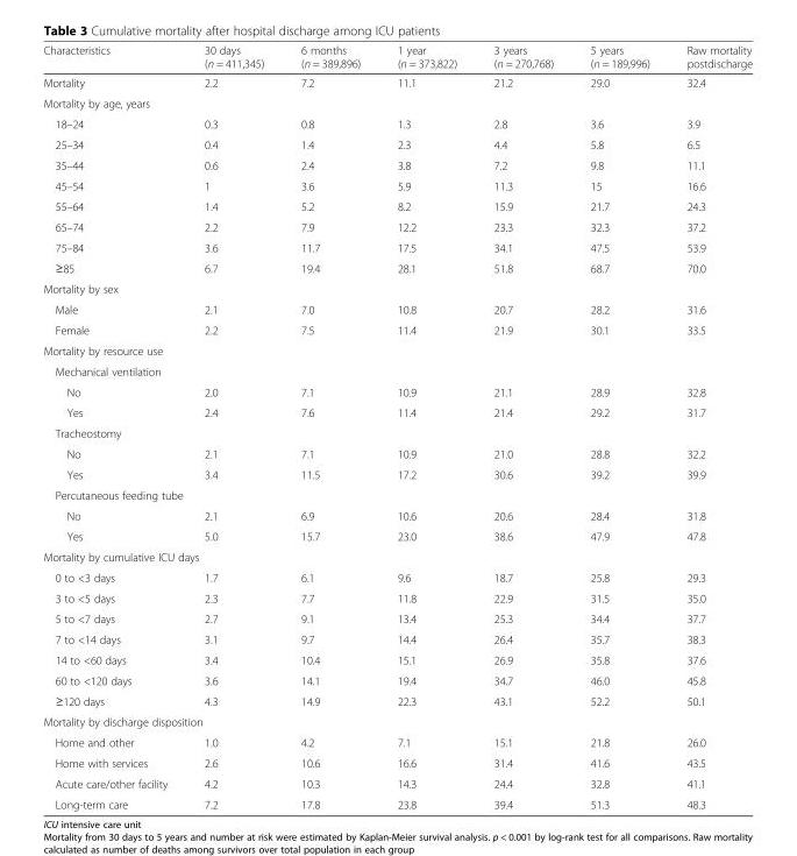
<table><thead><tr><td>Characteristics</td><td>30 days (n = 411,345)</td><td>6 months (n = 389,896)</td><td>1 year (n = 373,822)</td><td>3 years (n = 270,768)</td><td>5 years (n = 189,996)</td><td>Raw mortality postdischarge</td></tr></thead><tbody><tr><td>Mortality</td><td>2.2</td><td>7.2</td><td>11.1</td><td>21.2</td><td>29.0</td><td>32.4</td></tr><tr><td colspan="7">Mortality by age, years</td></tr><tr><td>18–24</td><td>0.3</td><td>0.8</td><td>1.3</td><td>2.8</td><td>3.6</td><td>3.9</td></tr><tr><td>25–34</td><td>0.4</td><td>1.4</td><td>2.3</td><td>4.4</td><td>5.8</td><td>6.5</td></tr><tr><td>35–44</td><td>0.6</td><td>2.4</td><td>3.8</td><td>7.2</td><td>9.8</td><td>11.1</td></tr><tr><td>45–54</td><td>1</td><td>3.6</td><td>5.9</td><td>11.3</td><td>15</td><td>16.6</td></tr><tr><td>55–64</td><td>1.4</td><td>5.2</td><td>8.2</td><td>15.9</td><td>21.7</td><td>24.3</td></tr><tr><td>65–74</td><td>2.2</td><td>7.9</td><td>12.2</td><td>23.3</td><td>32.3</td><td>37.2</td></tr><tr><td>75–84</td><td>3.6</td><td>11.7</td><td>17.5</td><td>34.1</td><td>47.5</td><td>53.9</td></tr><tr><td>≥85</td><td>6.7</td><td>19.4</td><td>28.1</td><td>51.8</td><td>68.7</td><td>70.0</td></tr><tr><td colspan="7">Mortality by sex</td></tr><tr><td>Male</td><td>2.1</td><td>7.0</td><td>10.8</td><td>20.7</td><td>28.2</td><td>31.6</td></tr><tr><td>Female</td><td>2.2</td><td>7.5</td><td>11.4</td><td>21.9</td><td>30.1</td><td>33.5</td></tr><tr><td colspan="7">Mortality by resource use</td></tr><tr><td colspan="7">Mechanical ventilation</td></tr><tr><td>No</td><td>2.0</td><td>7.1</td><td>10.9</td><td>21.1</td><td>28.9</td><td>32.8</td></tr><tr><td>Yes</td><td>2.4</td><td>7.6</td><td>11.4</td><td>21.4</td><td>29.2</td><td>31.7</td></tr><tr><td colspan="7">Tracheostomy</td></tr><tr><td>No</td><td>2.1</td><td>7.1</td><td>10.9</td><td>21.0</td><td>28.8</td><td>32.2</td></tr><tr><td>Yes</td><td>3.4</td><td>11.5</td><td>17.2</td><td>30.6</td><td>39.2</td><td>39.9</td></tr><tr><td colspan="7">Percutaneous feeding tube</td></tr><tr><td>No</td><td>2.1</td><td>6.9</td><td>10.6</td><td>20.6</td><td>28.4</td><td>31.8</td></tr><tr><td>Yes</td><td>5.0</td><td>15.7</td><td>23.0</td><td>38.6</td><td>47.9</td><td>47.8</td></tr><tr><td colspan="7">Mortality by cumulative ICU days</td></tr><tr><td>0 to &lt;3 days</td><td>1.7</td><td>6.1</td><td>9.6</td><td>18.7</td><td>25.8</td><td>29.3</td></tr><tr><td>3 to &lt;5 days</td><td>2.3</td><td>7.7</td><td>11.8</td><td>22.9</td><td>31.5</td><td>35.0</td></tr><tr><td>5 to &lt;7 days</td><td>2.7</td><td>9.1</td><td>13.4</td><td>25.3</td><td>34.4</td><td>37.7</td></tr><tr><td>7 to &lt;14 days</td><td>3.1</td><td>9.7</td><td>14.4</td><td>26.4</td><td>35.7</td><td>38.3</td></tr><tr><td>14 to &lt;60 days</td><td>3.4</td><td>10.4</td><td>15.1</td><td>26.9</td><td>35.8</td><td>37.6</td></tr><tr><td>60 to &lt;120 days</td><td>3.6</td><td>14.1</td><td>19.4</td><td>34.7</td><td>46.0</td><td>45.8</td></tr><tr><td>≥120 days</td><td>4.3</td><td>14.9</td><td>22.3</td><td>43.1</td><td>52.2</td><td>50.1</td></tr><tr><td colspan="7">Mortality by discharge disposition</td></tr><tr><td>Home and other</td><td>1.0</td><td>4.2</td><td>7.1</td><td>15.1</td><td>21.8</td><td>26.0</td></tr><tr><td>Home with services</td><td>2.6</td><td>10.6</td><td>16.6</td><td>31.4</td><td>41.6</td><td>43.5</td></tr><tr><td>Acute care/other facility</td><td>4.2</td><td>10.3</td><td>14.3</td><td>24.4</td><td>32.8</td><td>41.1</td></tr><tr><td>Long-term care</td><td>7.2</td><td>17.8</td><td>23.8</td><td>39.4</td><td>51.3</td><td>48.3</td></tr></tbody></table>